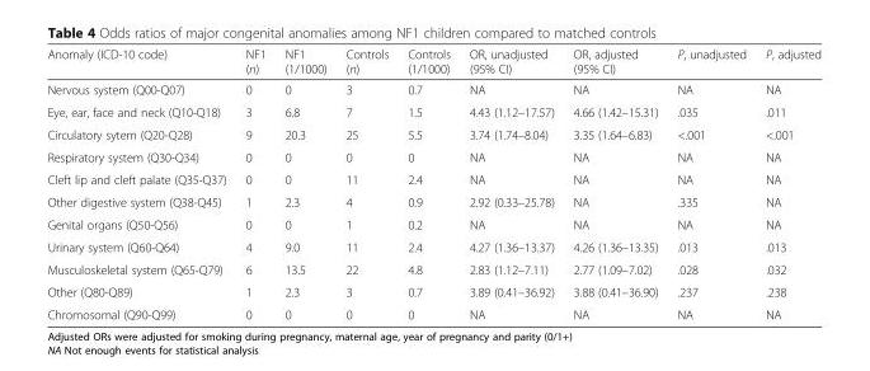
<table><thead><tr><td>Anomaly (ICD-10 code)</td><td>NF1 (n)</td><td>NF1 (1/1000)</td><td>Controls (n)</td><td>Controls (1/1000)</td><td>OR, unadjusted (95% CI)</td><td>OR, adjusted (95% CI)</td><td>P, unadjusted</td><td>P, adjusted</td></tr></thead><tbody><tr><td>Nervous system (Q00-Q07)</td><td>0</td><td>0</td><td>3</td><td>0.7</td><td>NA</td><td>NA</td><td>NA</td><td>NA</td></tr><tr><td>Eye, ear, face and neck (Q10-Q18)</td><td>3</td><td>6.8</td><td>7</td><td>1.5</td><td>4.43 (1.12–17.57)</td><td>4.66 (1.42–15.31)</td><td>.035</td><td>.011</td></tr><tr><td>Circulatory sytem (Q20-Q28)</td><td>9</td><td>20.3</td><td>25</td><td>5.5</td><td>3.74 (1.74–8.04)</td><td>3.35 (1.64–6.83)</td><td>&lt;.001</td><td>&lt;.001</td></tr><tr><td>Respiratory system (Q30-Q34)</td><td>0</td><td>0</td><td>0</td><td>0</td><td>NA</td><td>NA</td><td>NA</td><td>NA</td></tr><tr><td>Cleft lip and cleft palate (Q35-Q37)</td><td>0</td><td>0</td><td>11</td><td>2.4</td><td>NA</td><td>NA</td><td>NA</td><td>NA</td></tr><tr><td>Other digestive system (Q38-Q45)</td><td>1</td><td>2.3</td><td>4</td><td>0.9</td><td>2.92 (0.33–25.78)</td><td>NA</td><td>.335</td><td>NA</td></tr><tr><td>Genital organs (Q50-Q56)</td><td>0</td><td>0</td><td>1</td><td>0.2</td><td>NA</td><td>NA</td><td>NA</td><td>NA</td></tr><tr><td>Urinary system (Q60-Q64)</td><td>4</td><td>9.0</td><td>11</td><td>2.4</td><td>4.27 (1.36–13.37)</td><td>4.26 (1.36–13.35)</td><td>.013</td><td>.013</td></tr><tr><td>Musculoskeletal system (Q65-Q79)</td><td>6</td><td>13.5</td><td>22</td><td>4.8</td><td>2.83 (1.12–7.11)</td><td>2.77 (1.09–7.02)</td><td>.028</td><td>.032</td></tr><tr><td>Other (Q80-Q89)</td><td>1</td><td>2.3</td><td>3</td><td>0.7</td><td>3.89 (0.41–36.92)</td><td>3.88 (0.41–36.90)</td><td>.237</td><td>.238</td></tr><tr><td>Chromosomal (Q90-Q99)</td><td>0</td><td>0</td><td>0</td><td>0</td><td>NA</td><td>NA</td><td>NA</td><td>NA</td></tr></tbody></table>